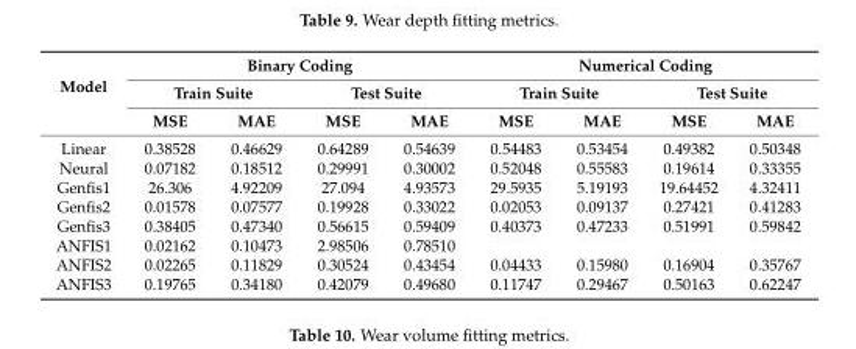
<table><thead><tr><td rowspan="3">Model</td><td colspan="4">Binary Coding</td><td colspan="4">Numerical Coding</td></tr><tr><td colspan="2">Train Suite</td><td colspan="2">Test Suite</td><td colspan="2">Train Suite</td><td colspan="2">Test Suite</td></tr><tr><td>MSE</td><td>MAE</td><td>MSE</td><td>MAE</td><td>MSE</td><td>MAE</td><td>MSE</td><td>MAE</td></tr></thead><tbody><tr><td>Linear</td><td>0.38528</td><td>0.46629</td><td>0.64289</td><td>0.54639</td><td>0.54483</td><td>0.53454</td><td>0.49382</td><td>0.50348</td></tr><tr><td>Neural</td><td>0.07182</td><td>0.18512</td><td>0.29991</td><td>0.30002</td><td>0.52048</td><td>0.55583</td><td>0.19614</td><td>0.33355</td></tr><tr><td>Genfis1</td><td>26.306</td><td>4.92209</td><td>27.094</td><td>4.93573</td><td>29.5935</td><td>5.19193</td><td>19.64452</td><td>4.32411</td></tr><tr><td>Genfis2</td><td>0.01578</td><td>0.07577</td><td>0.19928</td><td>0.33022</td><td>0.02053</td><td>0.09137</td><td>0.27421</td><td>0.41283</td></tr><tr><td>Genfis3</td><td>0.38405</td><td>0.47340</td><td>0.56615</td><td>0.59409</td><td>0.40373</td><td>0.47233</td><td>0.51991</td><td>0.59842</td></tr><tr><td>ANFIS1</td><td>0.02162</td><td>0.10473</td><td>2.98506</td><td>0.78510</td><td></td><td></td><td></td><td></td></tr><tr><td>ANFIS2</td><td>0.02265</td><td>0.11829</td><td>0.30524</td><td>0.43454</td><td>0.04433</td><td>0.15980</td><td>0.16904</td><td>0.35767</td></tr><tr><td>ANFIS3</td><td>0.19765</td><td>0.34180</td><td>0.42079</td><td>0.49680</td><td>0.11747</td><td>0.29467</td><td>0.50163</td><td>0.62247</td></tr></tbody></table>